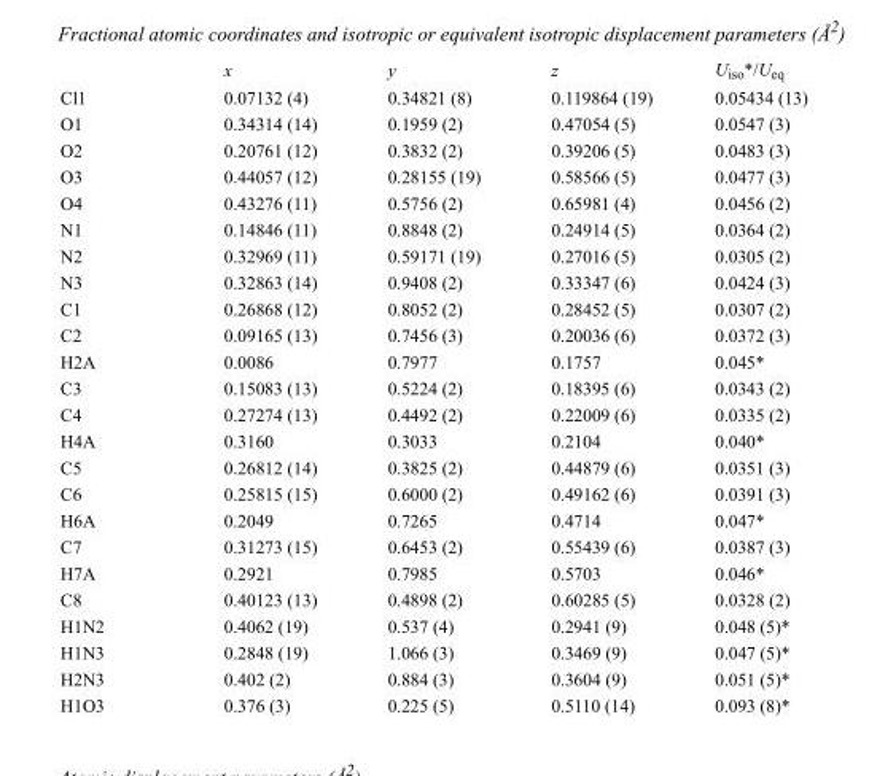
<table><thead><tr><td></td><td>x</td><td>y</td><td>z</td><td>U<sub>iso</sub>*/U<sub>eq</sub></td></tr></thead><tbody><tr><td>Cl1</td><td>0.07132 (4)</td><td>0.34821 (8)</td><td>0.119864 (19)</td><td>0.05434 (13)</td></tr><tr><td>O1</td><td>0.34314 (14)</td><td>0.1959 (2)</td><td>0.47054 (5)</td><td>0.0547 (3)</td></tr><tr><td>O2</td><td>0.20761 (12)</td><td>0.3832 (2)</td><td>0.39206 (5)</td><td>0.0483 (3)</td></tr><tr><td>O3</td><td>0.44057 (12)</td><td>0.28155 (19)</td><td>0.58566 (5)</td><td>0.0477 (3)</td></tr><tr><td>O4</td><td>0.43276 (11)</td><td>0.5756 (2)</td><td>0.65981 (4)</td><td>0.0456 (2)</td></tr><tr><td>N1</td><td>0.14846 (11)</td><td>0.8848 (2)</td><td>0.24914 (5)</td><td>0.0364 (2)</td></tr><tr><td>N2</td><td>0.32969 (11)</td><td>0.59171 (19)</td><td>0.27016 (5)</td><td>0.0305 (2)</td></tr><tr><td>N3</td><td>0.32863 (14)</td><td>0.9408 (2)</td><td>0.33347 (6)</td><td>0.0424 (3)</td></tr><tr><td>C1</td><td>0.26868 (12)</td><td>0.8052 (2)</td><td>0.28452 (5)</td><td>0.0307 (2)</td></tr><tr><td>C2</td><td>0.09165 (13)</td><td>0.7456 (3)</td><td>0.20036 (6)</td><td>0.0372 (3)</td></tr><tr><td>H2A</td><td>0.0086</td><td>0.7977</td><td>0.1757</td><td>0.045*</td></tr><tr><td>C3</td><td>0.15083 (13)</td><td>0.5224 (2)</td><td>0.18395 (6)</td><td>0.0343 (2)</td></tr><tr><td>C4</td><td>0.27274 (13)</td><td>0.4492 (2)</td><td>0.22009 (6)</td><td>0.0335 (2)</td></tr><tr><td>H4A</td><td>0.3160</td><td>0.3033</td><td>0.2104</td><td>0.040*</td></tr><tr><td>C5</td><td>0.26812 (14)</td><td>0.3825 (2)</td><td>0.44879 (6)</td><td>0.0351 (3)</td></tr><tr><td>C6</td><td>0.25815 (15)</td><td>0.6000 (2)</td><td>0.49162 (6)</td><td>0.0391 (3)</td></tr><tr><td>H6A</td><td>0.2049</td><td>0.7265</td><td>0.4714</td><td>0.047*</td></tr><tr><td>C7</td><td>0.31273 (15)</td><td>0.6453 (2)</td><td>0.55439 (6)</td><td>0.0387 (3)</td></tr><tr><td>H7A</td><td>0.2921</td><td>0.7985</td><td>0.5703</td><td>0.046*</td></tr><tr><td>C8</td><td>0.40123 (13)</td><td>0.4898 (2)</td><td>0.60285 (5)</td><td>0.0328 (2)</td></tr><tr><td>H1N2</td><td>0.4062 (19)</td><td>0.537 (4)</td><td>0.2941 (9)</td><td>0.048 (5)*</td></tr><tr><td>H1N3</td><td>0.2848 (19)</td><td>1.066 (3)</td><td>0.3469 (9)</td><td>0.047 (5)*</td></tr><tr><td>H2N3</td><td>0.402 (2)</td><td>0.884 (3)</td><td>0.3604 (9)</td><td>0.051 (5)*</td></tr><tr><td>H1O3</td><td>0.376 (3)</td><td>0.225 (5)</td><td>0.5110 (14)</td><td>0.093 (8)*</td></tr></tbody></table>